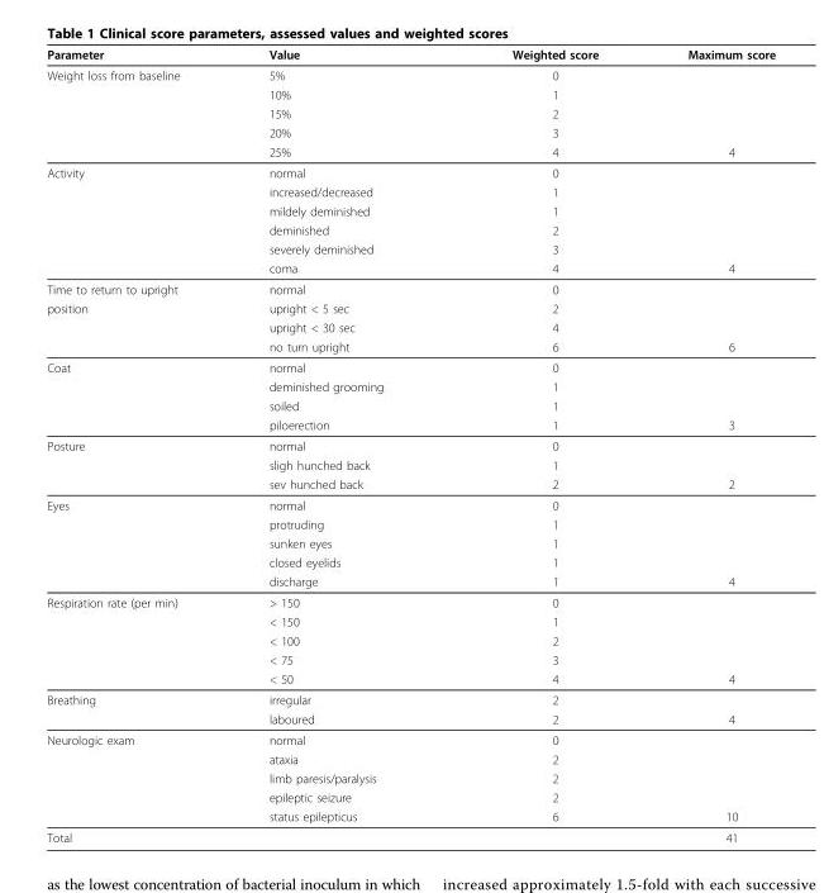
<table><thead><tr><td>Parameter</td><td>Value</td><td>Weighted score</td><td>Maximum score</td></tr></thead><tbody><tr><td rowspan="5">Weight loss from baseline</td><td>5%</td><td>0</td><td></td></tr><tr><td>10%</td><td>1</td><td></td></tr><tr><td>15%</td><td>2</td><td></td></tr><tr><td>20%</td><td>3</td><td></td></tr><tr><td>25%</td><td>4</td><td>4</td></tr><tr><td rowspan="6">Activity</td><td>normal</td><td>0</td><td></td></tr><tr><td>increased/decreased</td><td>1</td><td></td></tr><tr><td>mildely deminished</td><td>1</td><td></td></tr><tr><td>deminished</td><td>2</td><td></td></tr><tr><td>severely deminished</td><td>3</td><td></td></tr><tr><td>coma</td><td>4</td><td>4</td></tr><tr><td>Time to return to upright</td><td>normal</td><td>0</td><td></td></tr><tr><td rowspan="3">position</td><td>upright &lt; 5 sec</td><td>2</td><td></td></tr><tr><td>upright &lt; 30 sec</td><td>4</td><td></td></tr><tr><td>no turn upright</td><td>6</td><td>6</td></tr><tr><td rowspan="4">Coat</td><td>normal</td><td>0</td><td></td></tr><tr><td>deminished grooming</td><td>1</td><td></td></tr><tr><td>soiled</td><td>1</td><td></td></tr><tr><td>piloerection</td><td>1</td><td>3</td></tr><tr><td rowspan="3">Posture</td><td>normal</td><td>0</td><td></td></tr><tr><td>sligh hunched back</td><td>1</td><td></td></tr><tr><td>sev hunched back</td><td>2</td><td>2</td></tr><tr><td rowspan="5">Eyes</td><td>normal</td><td>0</td><td></td></tr><tr><td>protruding</td><td>1</td><td></td></tr><tr><td>sunken eyes</td><td>1</td><td></td></tr><tr><td>closed eyelids</td><td>1</td><td></td></tr><tr><td>discharge</td><td>1</td><td>4</td></tr><tr><td rowspan="5">Respiration rate (per min)</td><td>&gt; 150</td><td>0</td><td></td></tr><tr><td>&lt; 150</td><td>1</td><td></td></tr><tr><td>&lt; 100</td><td>2</td><td></td></tr><tr><td>&lt; 75</td><td>3</td><td></td></tr><tr><td>&lt; 50</td><td>4</td><td>4</td></tr><tr><td rowspan="2">Breathing</td><td>irregular</td><td>2</td><td></td></tr><tr><td>laboured</td><td>2</td><td>4</td></tr><tr><td rowspan="5">Neurologic exam</td><td>normal</td><td>0</td><td></td></tr><tr><td>ataxia</td><td>2</td><td></td></tr><tr><td>limb paresis/paralysis</td><td>2</td><td></td></tr><tr><td>epileptic seizure</td><td>2</td><td></td></tr><tr><td>status epilepticus</td><td>6</td><td>10</td></tr><tr><td>Total</td><td></td><td></td><td>41</td></tr></tbody></table>